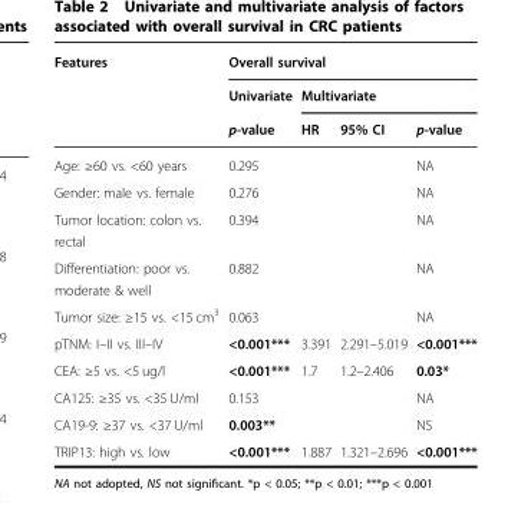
<table><thead><tr><td rowspan="3">Features</td><td colspan="4">Overall survival</td></tr><tr><td rowspan="2">Univariate p-value</td><td colspan="3">Multivariate</td></tr><tr><td>HR</td><td>95% CI</td><td>p-value</td></tr></thead><tbody><tr><td>Age: ≥60 vs. &lt;60 years</td><td>0.295</td><td></td><td></td><td>NA</td></tr><tr><td>Gender: male vs. female</td><td>0.276</td><td></td><td></td><td>NA</td></tr><tr><td>Tumor location: colon vs. rectal</td><td>0.394</td><td></td><td></td><td>NA</td></tr><tr><td>Differentiation: poor vs. moderate &amp; well</td><td>0.882</td><td></td><td></td><td>NA</td></tr><tr><td>Tumor size: ≥15 vs. &lt;15 cm<sup>3</sup></td><td>0.063</td><td></td><td></td><td>NA</td></tr><tr><td>pTNM: I–II vs. III–IV</td><td>&lt;0.001***</td><td>3.391</td><td>2.291–5.019</td><td>&lt;0.001***</td></tr><tr><td>CEA: ≥5 vs. &lt;5 ug/l</td><td>&lt;0.001***</td><td>1.7</td><td>1.2–2.406</td><td>0.03*</td></tr><tr><td>CA125: ≥35 vs. &lt;35 U/ml</td><td>0.153</td><td></td><td></td><td>NA</td></tr><tr><td>CA19-9: ≥37 vs. &lt;37 U/ml</td><td>0.003**</td><td></td><td></td><td>NS</td></tr><tr><td>TRIP13: high vs. low</td><td>&lt;0.001***</td><td>1.887</td><td>1.321–2.696</td><td>&lt;0.001***</td></tr></tbody></table>